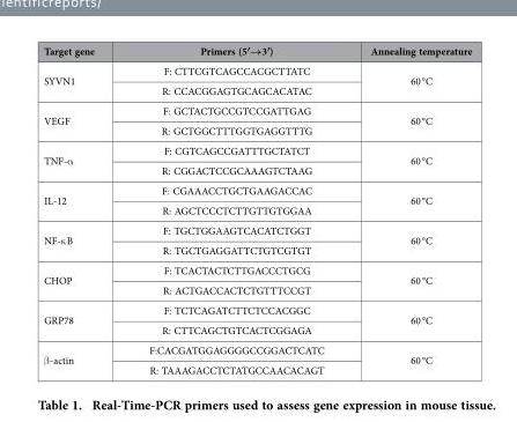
<table><thead><tr><td>Target gene</td><td>Primers (5′→3′)</td><td>Annealing temperature</td></tr></thead><tbody><tr><td rowspan="2">SYVN1</td><td>F: CTTCGTCAGCCACGCTTATC</td><td rowspan="2">60 °C</td></tr><tr><td>R: CCACGGAGTGCAGCACATAC</td></tr><tr><td rowspan="2">VEGF</td><td>F: GCTACTGCCGTCCGATTGAG</td><td rowspan="2">60 °C</td></tr><tr><td>R: GCTGGCTTTGGTGAGGTTTG</td></tr><tr><td rowspan="2">TNF-α</td><td>F: CGTCAGCCGATTTGCTATCT</td><td rowspan="2">60 °C</td></tr><tr><td>R: CGGACTCCGCAAAGTCTAAG</td></tr><tr><td rowspan="2">IL-12</td><td>F: CGAAACCTGCTGAAGACCAC</td><td rowspan="2">60 °C</td></tr><tr><td>R: AGCTCCCTCTTGTTGTGGAA</td></tr><tr><td rowspan="2">NF-κ B</td><td>F: TGCTGGAAGTCACATCTGGT</td><td rowspan="2">60 °C</td></tr><tr><td>R: TGCTGAGGATTCTGTCGTGT</td></tr><tr><td rowspan="2">CHOP</td><td>F: TCACTACTCTTGACCCTGCG</td><td rowspan="2">60 °C</td></tr><tr><td>R: ACTGACCACTCTGTTTCCGT</td></tr><tr><td rowspan="2">GRP78</td><td>F: TCTCAGATCTTCTCCACGGC</td><td rowspan="2">60 °C</td></tr><tr><td>R: CTTCAGCTGTCACTCGGAGA</td></tr><tr><td rowspan="2">β -actin</td><td>F:CACGATGGAGGGGCCGGACTCATC</td><td rowspan="2">60 °C</td></tr><tr><td>R: TAAAGACCTCTATGCCAACACAGT</td></tr></tbody></table>